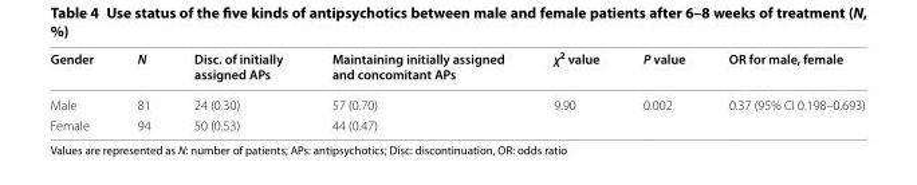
<table><thead><tr><td>Gender</td><td>N</td><td>Disc. of initially assigned APs</td><td>Maintaining initially assigned and concomitant APs</td><td>χ<sup>2</sup> value</td><td>P value</td><td>OR for male, female</td></tr></thead><tbody><tr><td>Male</td><td>81</td><td>24 (0.30)</td><td>57 (0.70)</td><td rowspan="2">9.90</td><td rowspan="2">0.002</td><td rowspan="2">0.37 (95% CI 0.198–0.693)</td></tr><tr><td>Female</td><td>94</td><td>50 (0.53)</td><td>44 (0.47)</td></tr></tbody></table>